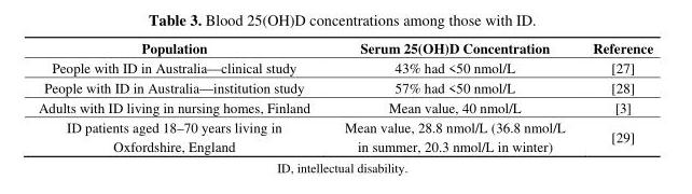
<table><thead><tr><td>Population</td><td>Serum 25(OH)D Concentration</td><td>Reference</td></tr></thead><tbody><tr><td>People with ID in Australia—clinical study</td><td>43% had &lt;50 nmol/L</td><td>[27]</td></tr><tr><td>People with ID in Australia—institution study</td><td>57% had &lt;50 nmol/L</td><td>[28]</td></tr><tr><td>Adults with ID living in nursing homes, Finland</td><td>Mean value, 40 nmol/L</td><td>[3]</td></tr><tr><td>ID patients aged 18–70 years living in Oxfordshire, England</td><td>Mean value, 28.8 nmol/L (36.8 nmol/L in summer, 20.3 nmol/L in winter)</td><td>[29]</td></tr></tbody></table>